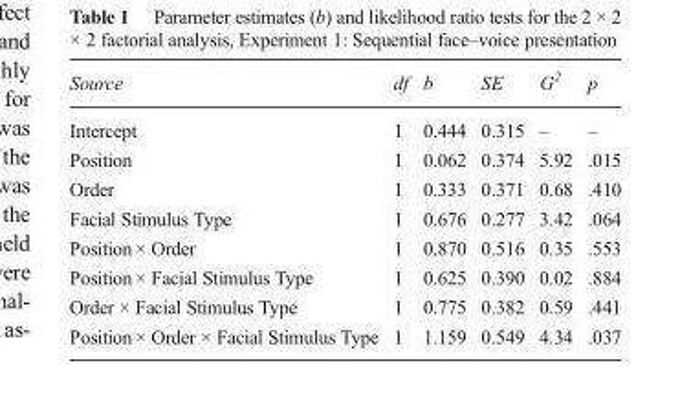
<table><thead><tr><td>Source</td><td>df</td><td>b</td><td>SE</td><td>G<sup>2</sup></td><td>p</td></tr></thead><tbody><tr><td>Intercept</td><td>1</td><td>0.444</td><td>0.315</td><td>–</td><td>–</td></tr><tr><td>Position</td><td>1</td><td>0.062</td><td>0.374</td><td>5.92</td><td>.015</td></tr><tr><td>Order</td><td>1</td><td>0.333</td><td>0.371</td><td>0.68</td><td>.410</td></tr><tr><td>Facial Stimulus Type</td><td>1</td><td>0.676</td><td>0.277</td><td>3.42</td><td>.064</td></tr><tr><td>Position × Order</td><td>1</td><td>0.870</td><td>0.516</td><td>0.35</td><td>.553</td></tr><tr><td>Position × Facial Stimulus Type</td><td>1</td><td>0.625</td><td>0.390</td><td>0.02</td><td>.884</td></tr><tr><td>Order × Facial Stimulus Type</td><td>1</td><td>0.775</td><td>0.382</td><td>0.59</td><td>.441</td></tr><tr><td>Position × Order × Facial Stimulus Type</td><td>1</td><td>1.159</td><td>0.549</td><td>4.34</td><td>.037</td></tr></tbody></table>